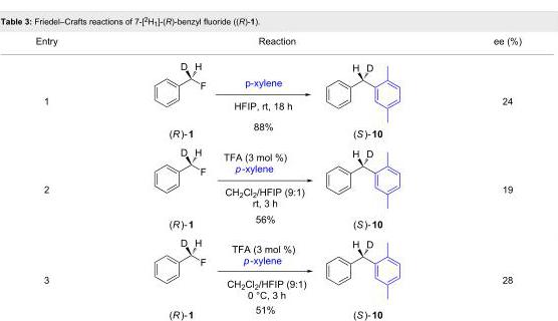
<table><tbody><tr><td>Entry</td><td>Reaction</td><td>ee (%)</td></tr><tr><td>1</td><td></td><td>24</td></tr><tr><td>2</td><td></td><td>19</td></tr><tr><td>3</td><td></td><td>28</td></tr></tbody></table>